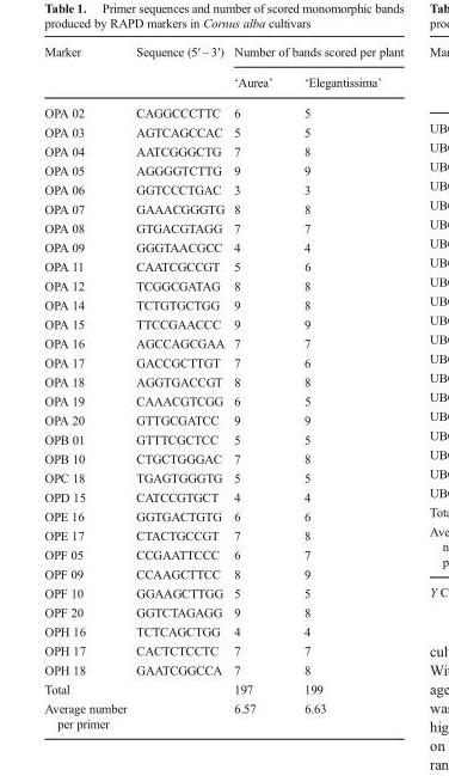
<table><thead><tr><td rowspan="2">Marker</td><td rowspan="2">Sequence (5′ – 3′)</td><td colspan="2">Number of bands scored per plant</td></tr><tr><td>‘Aurea’</td><td>‘Elegantissima’</td></tr></thead><tbody><tr><td>OPA 02</td><td>CAGGCCCTTC</td><td>6</td><td>5</td></tr><tr><td>OPA 03</td><td>AGTCAGCCAC</td><td>5</td><td>5</td></tr><tr><td>OPA 04</td><td>AATCGGGCTG</td><td>7</td><td>8</td></tr><tr><td>OPA 05</td><td>AGGGGTCTTG</td><td>9</td><td>9</td></tr><tr><td>OPA 06</td><td>GGTCCCTGAC</td><td>3</td><td>3</td></tr><tr><td>OPA 07</td><td>GAAACGGGTG</td><td>8</td><td>8</td></tr><tr><td>OPA 08</td><td>GTGACGTAGG</td><td>7</td><td>7</td></tr><tr><td>OPA 09</td><td>GGGTAACGCC</td><td>4</td><td>4</td></tr><tr><td>OPA 11</td><td>CAATCGCCGT</td><td>5</td><td>6</td></tr><tr><td>OPA 12</td><td>TCGGCGATAG</td><td>8</td><td>8</td></tr><tr><td>OPA 14</td><td>TCTGTGCTGG</td><td>9</td><td>8</td></tr><tr><td>OPA 15</td><td>TTCCGAACCC</td><td>9</td><td>9</td></tr><tr><td>OPA 16</td><td>AGCCAGCGAA</td><td>7</td><td>7</td></tr><tr><td>OPA 17</td><td>GACCGCTTGT</td><td>7</td><td>6</td></tr><tr><td>OPA 18</td><td>AGGTGACCGT</td><td>8</td><td>8</td></tr><tr><td>OPA 19</td><td>CAAACGTCGG</td><td>6</td><td>5</td></tr><tr><td>OPA 20</td><td>GTTGCGATCC</td><td>9</td><td>9</td></tr><tr><td>OPB 01</td><td>GTTTCGCTCC</td><td>5</td><td>5</td></tr><tr><td>OPB 10</td><td>CTGCTGGGAC</td><td>7</td><td>8</td></tr><tr><td>OPC 18</td><td>TGAGTGGGTG</td><td>5</td><td>5</td></tr><tr><td>OPD 15</td><td>CATCCGTGCT</td><td>4</td><td>4</td></tr><tr><td>OPE 16</td><td>GGTGACTGTG</td><td>6</td><td>6</td></tr><tr><td>OPE 17</td><td>CTACTGCCGT</td><td>7</td><td>8</td></tr><tr><td>OPF 05</td><td>CCGAATTCCC</td><td>6</td><td>7</td></tr><tr><td>OPF 09</td><td>CCAAGCTTCC</td><td>8</td><td>9</td></tr><tr><td>OPF 10</td><td>GGAAGCTTGG</td><td>5</td><td>5</td></tr><tr><td>OPF 20</td><td>GGTCTAGAGG</td><td>9</td><td>8</td></tr><tr><td>OPH 16</td><td>TCTCAGCTGG</td><td>4</td><td>4</td></tr><tr><td>OPH 17</td><td>CACTCTCCTC</td><td>7</td><td>7</td></tr><tr><td>OPH 18</td><td>GAATCGGCCA</td><td>7</td><td>8</td></tr><tr><td>Total</td><td></td><td>197</td><td>199</td></tr><tr><td>Average number per primer</td><td></td><td>6.57</td><td>6.63</td></tr></tbody></table>